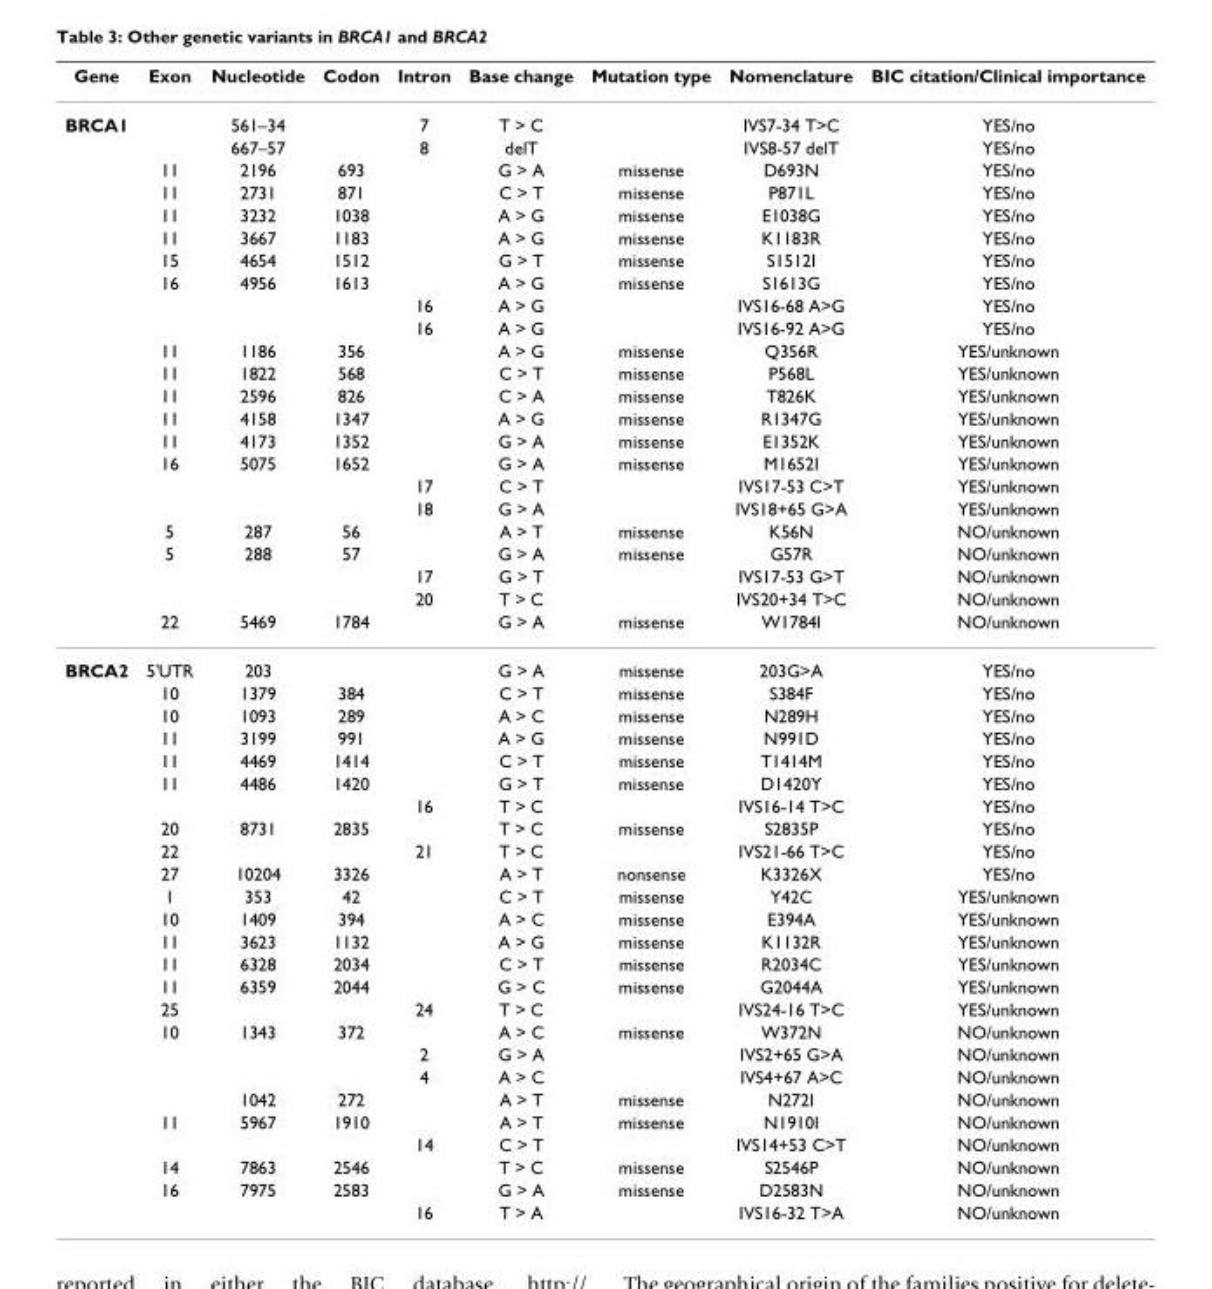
<table><thead><tr><td>Gene</td><td>Exon</td><td>Nucleotide</td><td>Codon</td><td>Intron</td><td>Base change</td><td>Mutation type</td><td>Nomenclature</td><td>BIC citation/Clinical importance</td></tr></thead><tbody><tr><td rowspan="23">BRCA1</td><td></td><td>561–34</td><td></td><td>7</td><td>T &gt; C</td><td></td><td>IVS7-34 T&gt;C</td><td>YES/no</td></tr><tr><td></td><td>667–57</td><td></td><td>8</td><td>delT</td><td></td><td>IVS8-57 delT</td><td>YES/no</td></tr><tr><td>11</td><td>2196</td><td>693</td><td></td><td>G &gt; A</td><td>missense</td><td>D693N</td><td>YES/no</td></tr><tr><td>11</td><td>2731</td><td>871</td><td></td><td>C &gt; T</td><td>missense</td><td>P871L</td><td>YES/no</td></tr><tr><td>11</td><td>3232</td><td>1038</td><td></td><td>A &gt; G</td><td>missense</td><td>E1038G</td><td>YES/no</td></tr><tr><td>11</td><td>3667</td><td>1183</td><td></td><td>A &gt; G</td><td>missense</td><td>K1183R</td><td>YES/no</td></tr><tr><td>15</td><td>4654</td><td>1512</td><td></td><td>G &gt; T</td><td>missense</td><td>S1512I</td><td>YES/no</td></tr><tr><td>16</td><td>4956</td><td>1613</td><td></td><td>A &gt; G</td><td>missense</td><td>S1613G</td><td>YES/no</td></tr><tr><td></td><td></td><td></td><td>16</td><td>A &gt; G</td><td></td><td>IVS16-68 A&gt;G</td><td>YES/no</td></tr><tr><td></td><td></td><td></td><td>16</td><td>A &gt; G</td><td></td><td>IVS16-92 A&gt;G</td><td>YES/no</td></tr><tr><td>11</td><td>1186</td><td>356</td><td></td><td>A &gt; G</td><td>missense</td><td>Q356R</td><td>YES/unknown</td></tr><tr><td>11</td><td>1822</td><td>568</td><td></td><td>C &gt; T</td><td>missense</td><td>P568L</td><td>YES/unknown</td></tr><tr><td>11</td><td>2596</td><td>826</td><td></td><td>C &gt; A</td><td>missense</td><td>T826K</td><td>YES/unknown</td></tr><tr><td>11</td><td>4158</td><td>1347</td><td></td><td>A &gt; G</td><td>missense</td><td>R1347G</td><td>YES/unknown</td></tr><tr><td>11</td><td>4173</td><td>1352</td><td></td><td>G &gt; A</td><td>missense</td><td>E1352K</td><td>YES/unknown</td></tr><tr><td>16</td><td>5075</td><td>1652</td><td></td><td>G &gt; A</td><td>missense</td><td>M1652I</td><td>YES/unknown</td></tr><tr><td></td><td></td><td></td><td>17</td><td>C &gt; T</td><td></td><td>IVS17-53 C&gt;T</td><td>YES/unknown</td></tr><tr><td></td><td></td><td></td><td>18</td><td>G &gt; A</td><td></td><td>IVS18+65 G&gt;A</td><td>YES/unknown</td></tr><tr><td>5</td><td>287</td><td>56</td><td></td><td>A &gt; T</td><td>missense</td><td>K56N</td><td>NO/unknown</td></tr><tr><td>5</td><td>288</td><td>57</td><td></td><td>G &gt; A</td><td>missense</td><td>G57R</td><td>NO/unknown</td></tr><tr><td></td><td></td><td></td><td>17</td><td>G &gt; T</td><td></td><td>IVS17-53 G&gt;T</td><td>NO/unknown</td></tr><tr><td></td><td></td><td></td><td>20</td><td>T &gt; C</td><td></td><td>IVS20+34 T&gt;C</td><td>NO/unknown</td></tr><tr><td>22</td><td>5469</td><td>1784</td><td></td><td>G &gt; A</td><td>missense</td><td>W1784I</td><td>NO/unknown</td></tr><tr><td rowspan="25">BRCA2</td><td>5&#x27;UTR</td><td>203</td><td></td><td></td><td>G &gt; A</td><td>missense</td><td>203G&gt;A</td><td>YES/no</td></tr><tr><td>10</td><td>1379</td><td>384</td><td></td><td>C &gt; T</td><td>missense</td><td>S384F</td><td>YES/no</td></tr><tr><td>10</td><td>1093</td><td>289</td><td></td><td>A &gt; C</td><td>missense</td><td>N289H</td><td>YES/no</td></tr><tr><td>11</td><td>3199</td><td>991</td><td></td><td>A &gt; G</td><td>missense</td><td>N991D</td><td>YES/no</td></tr><tr><td>11</td><td>4469</td><td>1414</td><td></td><td>C &gt; T</td><td>missense</td><td>T1414M</td><td>YES/no</td></tr><tr><td>11</td><td>4486</td><td>1420</td><td></td><td>G &gt; T</td><td>missense</td><td>D1420Y</td><td>YES/no</td></tr><tr><td></td><td></td><td></td><td>16</td><td>T &gt; C</td><td></td><td>IVS16-14 T&gt;C</td><td>YES/no</td></tr><tr><td>20</td><td>8731</td><td>2835</td><td></td><td>T &gt; C</td><td>missense</td><td>S2835P</td><td>YES/no</td></tr><tr><td>22</td><td></td><td></td><td>21</td><td>T &gt; C</td><td></td><td>IVS21-66 T&gt;C</td><td>YES/no</td></tr><tr><td>27</td><td>10204</td><td>3326</td><td></td><td>A &gt; T</td><td>nonsense</td><td>K3326X</td><td>YES/no</td></tr><tr><td>1</td><td>353</td><td>42</td><td></td><td>C &gt; T</td><td>missense</td><td>Y42C</td><td>YES/unknown</td></tr><tr><td>10</td><td>1409</td><td>394</td><td></td><td>A &gt; C</td><td>missense</td><td>E394A</td><td>YES/unknown</td></tr><tr><td>11</td><td>3623</td><td>1132</td><td></td><td>A &gt; G</td><td>missense</td><td>K1132R</td><td>YES/unknown</td></tr><tr><td>11</td><td>6328</td><td>2034</td><td></td><td>C &gt; T</td><td>missense</td><td>R2034C</td><td>YES/unknown</td></tr><tr><td>11</td><td>6359</td><td>2044</td><td></td><td>G &gt; C</td><td>missense</td><td>G2044A</td><td>YES/unknown</td></tr><tr><td>25</td><td></td><td></td><td>24</td><td>T &gt; C</td><td></td><td>IVS24-16 T&gt;C</td><td>YES/unknown</td></tr><tr><td>10</td><td>1343</td><td>372</td><td></td><td>A &gt; C</td><td>missense</td><td>W372N</td><td>NO/unknown</td></tr><tr><td></td><td></td><td></td><td>2</td><td>G &gt; A</td><td></td><td>IVS2+65 G&gt;A</td><td>NO/unknown</td></tr><tr><td></td><td></td><td></td><td>4</td><td>A &gt; C</td><td></td><td>IVS4+67 A&gt;C</td><td>NO/unknown</td></tr><tr><td></td><td>1042</td><td>272</td><td></td><td>A &gt; T</td><td>missense</td><td>N272I</td><td>NO/unknown</td></tr><tr><td>11</td><td>5967</td><td>1910</td><td></td><td>A &gt; T</td><td>missense</td><td>N1910I</td><td>NO/unknown</td></tr><tr><td></td><td></td><td></td><td>14</td><td>C &gt; T</td><td></td><td>IVS14+53 C&gt;T</td><td>NO/unknown</td></tr><tr><td>14</td><td>7863</td><td>2546</td><td></td><td>T &gt; C</td><td>missense</td><td>S2546P</td><td>NO/unknown</td></tr><tr><td>16</td><td>7975</td><td>2583</td><td></td><td>G &gt; A</td><td>missense</td><td>D2583N</td><td>NO/unknown</td></tr><tr><td></td><td></td><td></td><td>16</td><td>T &gt; A</td><td></td><td>IVS16-32 T&gt;A</td><td>NO/unknown</td></tr></tbody></table>